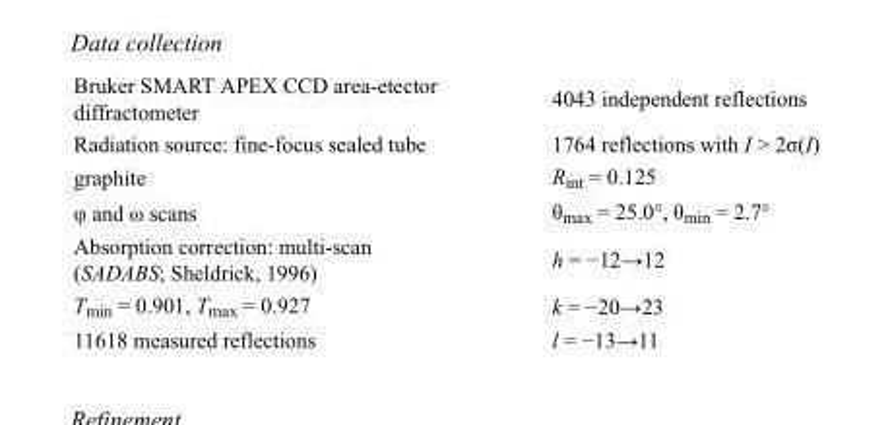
<table><tbody><tr><td>Bruker SMART APEX CCD area-etector diffractometer</td><td>4043 independent reflections</td></tr><tr><td>Radiation source: fine-focus sealed tube</td><td>1764 reflections with I &gt; 2σ(I)</td></tr><tr><td>graphite</td><td>R<sub>int</sub> = 0.125</td></tr><tr><td>φ and ω scans</td><td>θ<sub>max</sub> = 25.0°, θ<sub>min</sub> = 2.7°</td></tr><tr><td>Absorption correction: multi-scan (SADABS; Sheldrick, 1996)</td><td>h = −12→12</td></tr><tr><td>T<sub>min</sub> = 0.901, T<sub>max</sub> = 0.927</td><td>k = −20→23</td></tr><tr><td>11618 measured reflections</td><td>l = −13→11</td></tr></tbody></table>